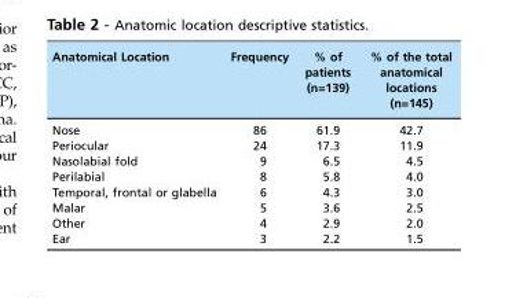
<table><thead><tr><td>Anatomical Location</td><td>Frequency</td><td>% of patients (n=139)</td><td>% of the total anatomical locations (n=145)</td></tr></thead><tbody><tr><td>Nose</td><td>86</td><td>61.9</td><td>42.7</td></tr><tr><td>Periocular</td><td>24</td><td>17.3</td><td>11.9</td></tr><tr><td>Nasolabial fold</td><td>9</td><td>6.5</td><td>4.5</td></tr><tr><td>Perilabial</td><td>8</td><td>5.8</td><td>4.0</td></tr><tr><td>Temporal, frontal or glabella</td><td>6</td><td>4.3</td><td>3.0</td></tr><tr><td>Malar</td><td>5</td><td>3.6</td><td>2.5</td></tr><tr><td>Other</td><td>4</td><td>2.9</td><td>2.0</td></tr><tr><td>Ear</td><td>3</td><td>2.2</td><td>1.5</td></tr></tbody></table>